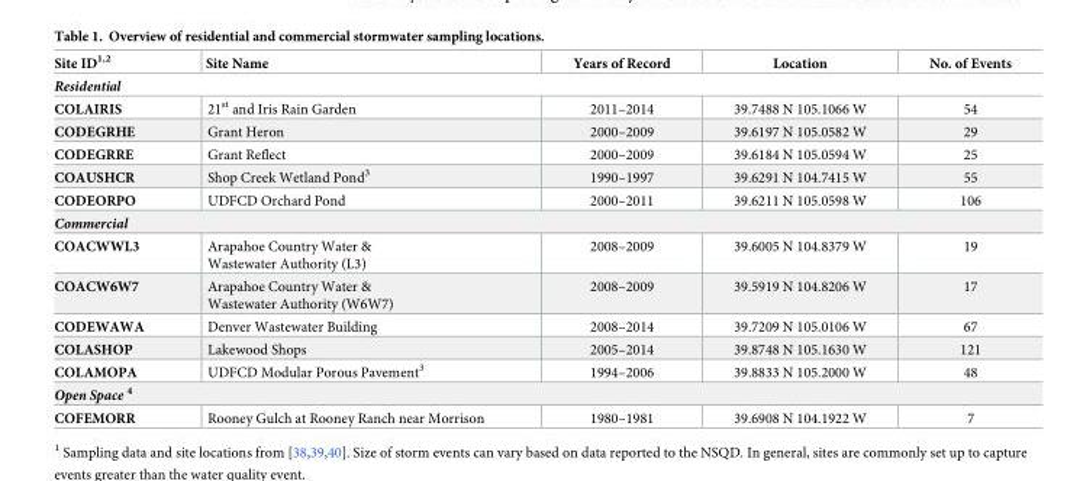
<table><thead><tr><td>Site ID<sup>1,2</sup></td><td>Site Name</td><td>Years of Record</td><td>Location</td><td>No. of Events</td></tr></thead><tbody><tr><td colspan="5">Residential</td></tr><tr><td>COLAIRIS</td><td>21<sup>st</sup> and Iris Rain Garden</td><td>2011–2014</td><td>39.7488 N 105.1066 W</td><td>54</td></tr><tr><td>CODEGRHE</td><td>Grant Heron</td><td>2000–2009</td><td>39.6197 N 105.0582 W</td><td>29</td></tr><tr><td>CODEGRRE</td><td>Grant Reflect</td><td>2000–2009</td><td>39.6184 N 105.0594 W</td><td>25</td></tr><tr><td>COAUSHCR</td><td>Shop Creek Wetland Pond<sup>3</sup></td><td>1990–1997</td><td>39.6291 N 104.7415 W</td><td>55</td></tr><tr><td>CODEORPO</td><td>UDFCD Orchard Pond</td><td>2000–2011</td><td>39.6211 N 105.0598 W</td><td>106</td></tr><tr><td colspan="5">Commercial</td></tr><tr><td>COACWWL3</td><td>Arapahoe Country Water &amp; Wastewater Authority (L3)</td><td>2008–2009</td><td>39.6005 N 104.8379 W</td><td>19</td></tr><tr><td>COACW6W7</td><td>Arapahoe Country Water &amp; Wastewater Authority (W6W7)</td><td>2008–2009</td><td>39.5919 N 104.8206 W</td><td>17</td></tr><tr><td>CODEWAWA</td><td>Denver Wastewater Building</td><td>2008–2014</td><td>39.7209 N 105.0106 W</td><td>67</td></tr><tr><td>COLASHOP</td><td>Lakewood Shops</td><td>2005–2014</td><td>39.8748 N 105.1630 W</td><td>121</td></tr><tr><td>COLAMOPA</td><td>UDFCD Modular Porous Pavement<sup>3</sup></td><td>1994–2006</td><td>39.8833 N 105.2000 W</td><td>48</td></tr><tr><td colspan="5">Open Space <sup>4</sup></td></tr><tr><td>COFEMORR</td><td>Rooney Gulch at Rooney Ranch near Morrison</td><td>1980–1981</td><td>39.6908 N 104.1922 W</td><td>7</td></tr></tbody></table>